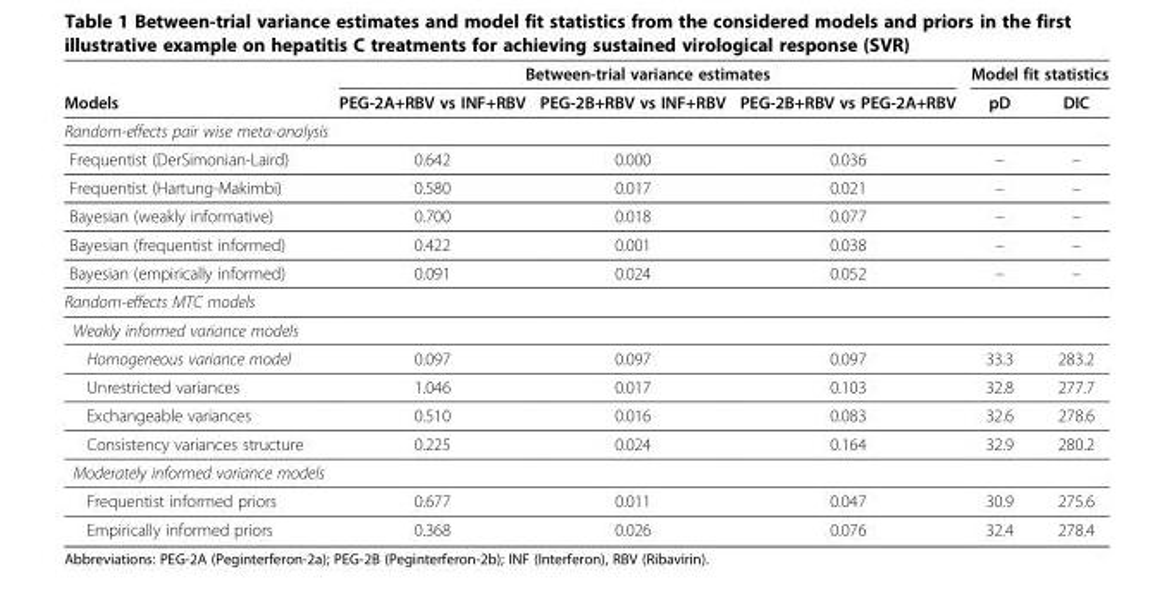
<table><thead><tr><td rowspan="2">Models</td><td colspan="3">Between-trial variance estimates</td><td colspan="2">Model fit statistics</td></tr><tr><td>PEG-2A+RBV vs INF+RBV</td><td>PEG-2B+RBV vs INF+RBV</td><td>PEG-2B+RBV vs PEG-2A+RBV</td><td>pD</td><td>DIC</td></tr></thead><tbody><tr><td colspan="6">Random-effects pair wise meta-analysis</td></tr><tr><td>Frequentist (DerSimonian-Laird)</td><td>0.642</td><td>0.000</td><td>0.036</td><td>–</td><td>–</td></tr><tr><td>Frequentist (Hartung-Makimbi)</td><td>0.580</td><td>0.017</td><td>0.021</td><td>–</td><td>–</td></tr><tr><td>Bayesian (weakly informative)</td><td>0.700</td><td>0.018</td><td>0.077</td><td>–</td><td>–</td></tr><tr><td>Bayesian (frequentist informed)</td><td>0.422</td><td>0.001</td><td>0.038</td><td>–</td><td>–</td></tr><tr><td>Bayesian (empirically informed)</td><td>0.091</td><td>0.024</td><td>0.052</td><td>–</td><td>–</td></tr><tr><td colspan="6">Random-effects MTC models</td></tr><tr><td colspan="6">Weakly informed variance models</td></tr><tr><td>Homogeneous variance model</td><td>0.097</td><td>0.097</td><td>0.097</td><td>33.3</td><td>283.2</td></tr><tr><td>Unrestricted variances</td><td>1.046</td><td>0.017</td><td>0.103</td><td>32.8</td><td>277.7</td></tr><tr><td>Exchangeable variances</td><td>0.510</td><td>0.016</td><td>0.083</td><td>32.6</td><td>278.6</td></tr><tr><td>Consistency variances structure</td><td>0.225</td><td>0.024</td><td>0.164</td><td>32.9</td><td>280.2</td></tr><tr><td colspan="6">Moderately informed variance models</td></tr><tr><td>Frequentist informed priors</td><td>0.677</td><td>0.011</td><td>0.047</td><td>30.9</td><td>275.6</td></tr><tr><td>Empirically informed priors</td><td>0.368</td><td>0.026</td><td>0.076</td><td>32.4</td><td>278.4</td></tr></tbody></table>